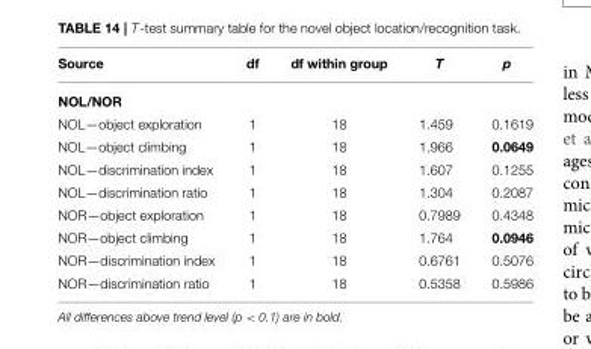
<table><thead><tr><td>Source</td><td>df</td><td>df within group</td><td>T</td><td>p</td></tr></thead><tbody><tr><td colspan="5">NOL/NOR</td></tr><tr><td>NOL—object exploration</td><td>1</td><td>18</td><td>1.459</td><td>0.1619</td></tr><tr><td>NOL—object climbing</td><td>1</td><td>18</td><td>1.966</td><td>0.0649</td></tr><tr><td>NOL—discrimination index</td><td>1</td><td>18</td><td>1.607</td><td>0.1255</td></tr><tr><td>NOL—discrimination ratio</td><td>1</td><td>18</td><td>1.304</td><td>0.2087</td></tr><tr><td>NOR—object exploration</td><td>1</td><td>18</td><td>0.7989</td><td>0.4348</td></tr><tr><td>NOR—object climbing</td><td>1</td><td>18</td><td>1.764</td><td>0.0946</td></tr><tr><td>NOR—discrimination index</td><td>1</td><td>18</td><td>0.6761</td><td>0.5076</td></tr><tr><td>NOR—discrimination ratio</td><td>1</td><td>18</td><td>0.5358</td><td>0.5986</td></tr></tbody></table>